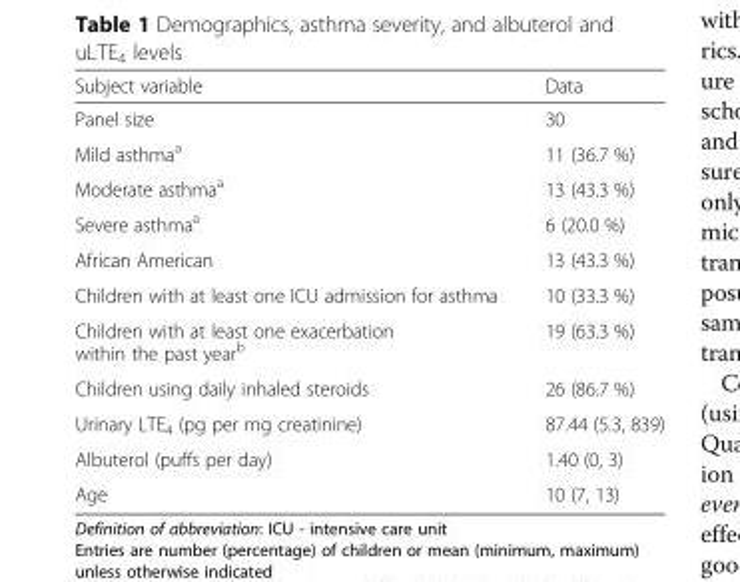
<table><thead><tr><td>Subject variable</td><td>Data</td></tr></thead><tbody><tr><td>Panel size</td><td>30</td></tr><tr><td>Mild asthma<sup>a</sup></td><td>11 (36.7 %)</td></tr><tr><td>Moderate asthma<sup>a</sup></td><td>13 (43.3 %)</td></tr><tr><td>Severe asthma<sup>a</sup></td><td>6 (20.0 %)</td></tr><tr><td>African American</td><td>13 (43.3 %)</td></tr><tr><td>Children with at least one ICU admission for asthma</td><td>10 (33.3 %)</td></tr><tr><td>Children with at least one exacerbation within the past year<sup>b</sup></td><td>19 (63.3 %)</td></tr><tr><td>Children using daily inhaled steroids</td><td>26 (86.7 %)</td></tr><tr><td>Urinary LTE<sub>4</sub> (pg per mg creatinine)</td><td>87.44 (5.3, 839)</td></tr><tr><td>Albuterol (puffs per day)</td><td>1.40 (0, 3)</td></tr><tr><td>Age</td><td>10 (7, 13)</td></tr></tbody></table>